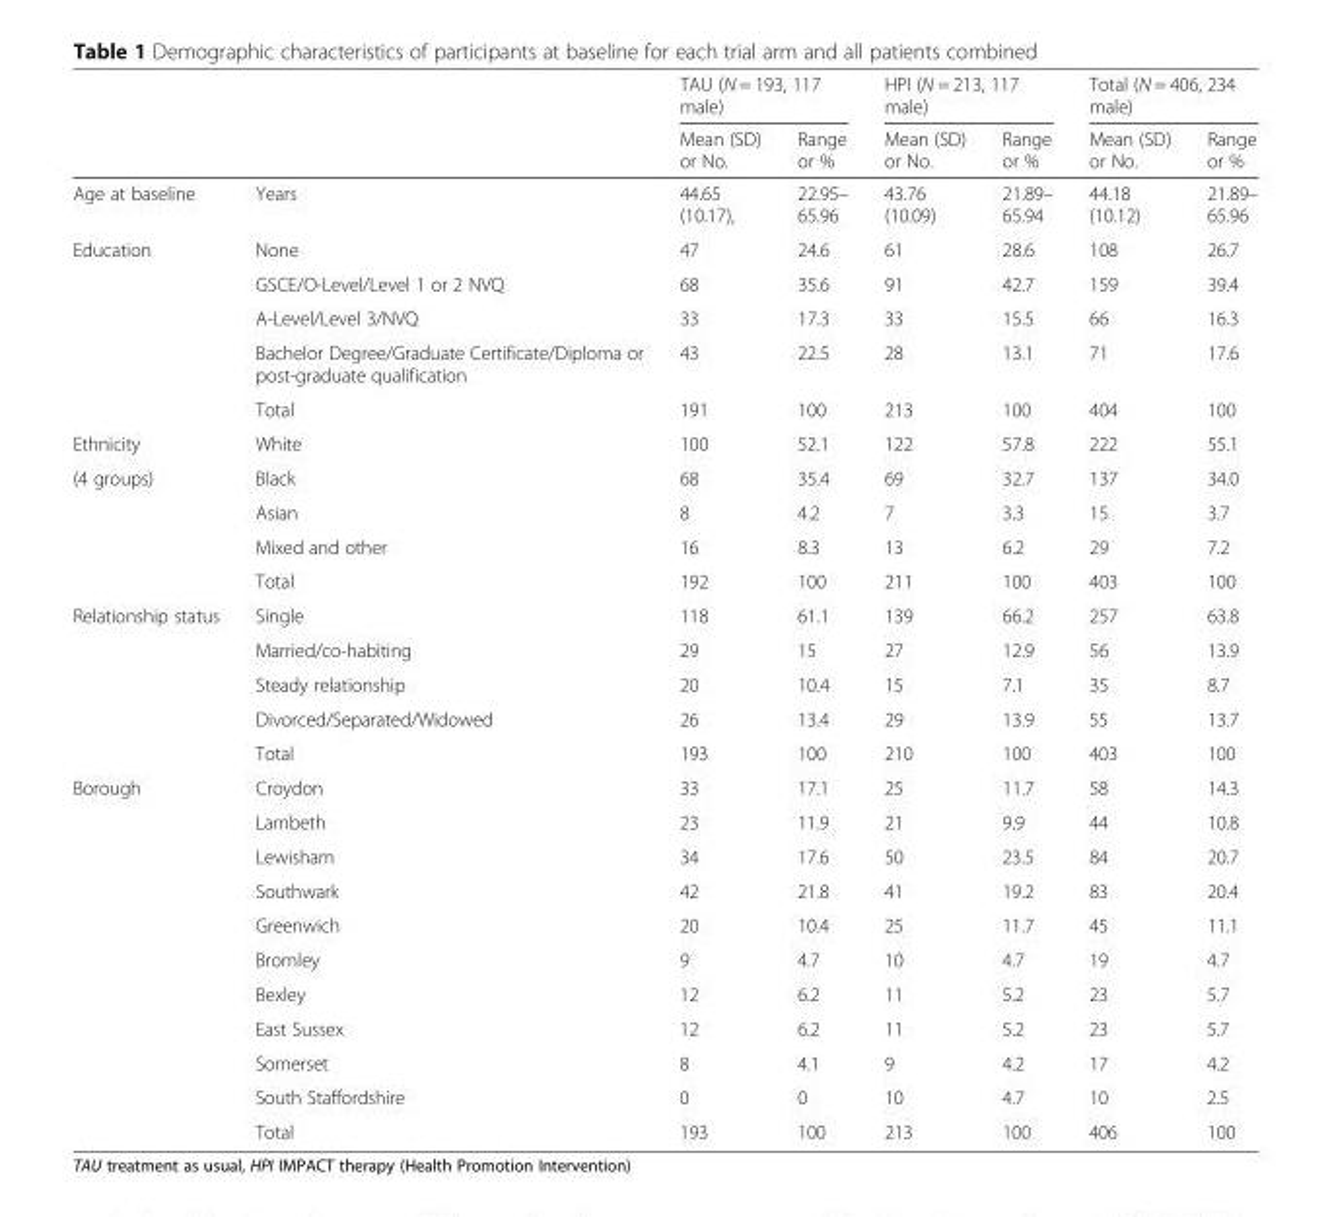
<table><thead><tr><td rowspan="2"></td><td rowspan="2"></td><td colspan="2">TAU (N = 193, 117 male)</td><td colspan="2">HPI (N = 213, 117 male)</td><td colspan="2">Total (N = 406, 234 male)</td></tr><tr><td>Mean (SD) or No.</td><td>Range or %</td><td>Mean (SD) or No.</td><td>Range or %</td><td>Mean (SD) or No.</td><td>Range or %</td></tr></thead><tbody><tr><td>Age at baseline</td><td>Years</td><td>44.65 (10.17),</td><td>22.95– 65.96</td><td>43.76 (10.09)</td><td>21.89– 65.94</td><td>44.18 (10.12)</td><td>21.89– 65.96</td></tr><tr><td rowspan="5">Education</td><td>None</td><td>47</td><td>24.6</td><td>61</td><td>28.6</td><td>108</td><td>26.7</td></tr><tr><td>GSCE/O-Level/Level 1 or 2 NVQ</td><td>68</td><td>35.6</td><td>91</td><td>42.7</td><td>159</td><td>39.4</td></tr><tr><td>A-Level/Level 3/NVQ</td><td>33</td><td>17.3</td><td>33</td><td>15.5</td><td>66</td><td>16.3</td></tr><tr><td>Bachelor Degree/Graduate Certificate/Diploma or post-graduate qualification</td><td>43</td><td>22.5</td><td>28</td><td>13.1</td><td>71</td><td>17.6</td></tr><tr><td>Total</td><td>191</td><td>100</td><td>213</td><td>100</td><td>404</td><td>100</td></tr><tr><td>Ethnicity</td><td>White</td><td>100</td><td>52.1</td><td>122</td><td>57.8</td><td>222</td><td>55.1</td></tr><tr><td rowspan="4">(4 groups)</td><td>Black</td><td>68</td><td>35.4</td><td>69</td><td>32.7</td><td>137</td><td>34.0</td></tr><tr><td>Asian</td><td>8</td><td>4.2</td><td>7</td><td>3.3</td><td>15</td><td>3.7</td></tr><tr><td>Mixed and other</td><td>16</td><td>8.3</td><td>13</td><td>6.2</td><td>29</td><td>7.2</td></tr><tr><td>Total</td><td>192</td><td>100</td><td>211</td><td>100</td><td>403</td><td>100</td></tr><tr><td rowspan="5">Relationship status</td><td>Single</td><td>118</td><td>61.1</td><td>139</td><td>66.2</td><td>257</td><td>63.8</td></tr><tr><td>Married/co-habiting</td><td>29</td><td>15</td><td>27</td><td>12.9</td><td>56</td><td>13.9</td></tr><tr><td>Steady relationship</td><td>20</td><td>10.4</td><td>15</td><td>7.1</td><td>35</td><td>8.7</td></tr><tr><td>Divorced/Separated/Widowed</td><td>26</td><td>13.4</td><td>29</td><td>13.9</td><td>55</td><td>13.7</td></tr><tr><td>Total</td><td>193</td><td>100</td><td>210</td><td>100</td><td>403</td><td>100</td></tr><tr><td rowspan="11">Borough</td><td>Croydon</td><td>33</td><td>17.1</td><td>25</td><td>11.7</td><td>58</td><td>14.3</td></tr><tr><td>Lambeth</td><td>23</td><td>11.9</td><td>21</td><td>9.9</td><td>44</td><td>10.8</td></tr><tr><td>Lewisham</td><td>34</td><td>17.6</td><td>50</td><td>23.5</td><td>84</td><td>20.7</td></tr><tr><td>Southwark</td><td>42</td><td>21.8</td><td>41</td><td>19.2</td><td>83</td><td>20.4</td></tr><tr><td>Greenwich</td><td>20</td><td>10.4</td><td>25</td><td>11.7</td><td>45</td><td>11.1</td></tr><tr><td>Bromley</td><td>9</td><td>4.7</td><td>10</td><td>4.7</td><td>19</td><td>4.7</td></tr><tr><td>Bexley</td><td>12</td><td>6.2</td><td>11</td><td>5.2</td><td>23</td><td>5.7</td></tr><tr><td>East Sussex</td><td>12</td><td>6.2</td><td>11</td><td>5.2</td><td>23</td><td>5.7</td></tr><tr><td>Somerset</td><td>8</td><td>4.1</td><td>9</td><td>4.2</td><td>17</td><td>4.2</td></tr><tr><td>South Staffordshire</td><td>0</td><td>0</td><td>10</td><td>4.7</td><td>10</td><td>2.5</td></tr><tr><td>Total</td><td>193</td><td>100</td><td>213</td><td>100</td><td>406</td><td>100</td></tr></tbody></table>